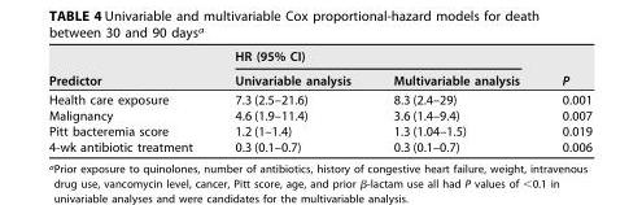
<table><thead><tr><td rowspan="2">Predictor</td><td colspan="2">HR (95% CI)</td><td rowspan="2">P</td></tr><tr><td>Univariable analysis</td><td>Multivariable analysis</td></tr></thead><tbody><tr><td>Health care exposure</td><td>7.3 (2.5–21.6)</td><td>8.3 (2.4–29)</td><td>0.001</td></tr><tr><td>Malignancy</td><td>4.6 (1.9–11.4)</td><td>3.6 (1.4–9.4)</td><td>0.007</td></tr><tr><td>Pitt bacteremia score</td><td>1.2 (1–1.4)</td><td>1.3 (1.04–1.5)</td><td>0.019</td></tr><tr><td>4-wk antibiotic treatment</td><td>0.3 (0.1–0.7)</td><td>0.3 (0.1–0.7)</td><td>0.006</td></tr></tbody></table>